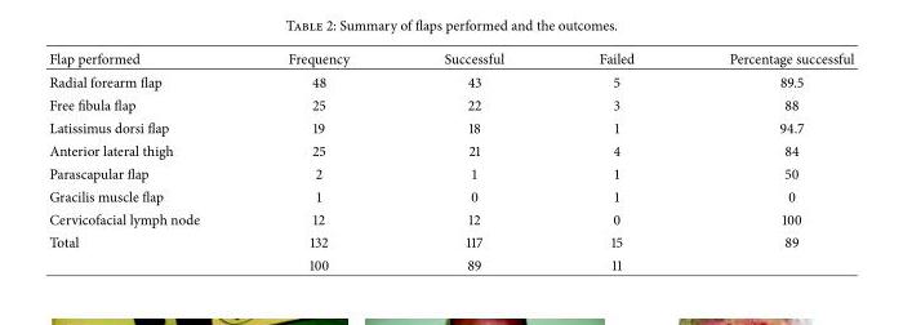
<table><thead><tr><td>Flap performed</td><td>Frequency</td><td>Successful</td><td>Failed</td><td>Percentage successful</td></tr></thead><tbody><tr><td>Radial forearm flap</td><td>48</td><td>43</td><td>5</td><td>89.5</td></tr><tr><td>Free fibula flap</td><td>25</td><td>22</td><td>3</td><td>88</td></tr><tr><td>Latissimus dorsi flap</td><td>19</td><td>18</td><td>1</td><td>94.7</td></tr><tr><td>Anterior lateral thigh</td><td>25</td><td>21</td><td>4</td><td>84</td></tr><tr><td>Parascapular flap</td><td>2</td><td>1</td><td>1</td><td>50</td></tr><tr><td>Gracilis muscle flap</td><td>1</td><td>0</td><td>1</td><td>0</td></tr><tr><td>Cervicofacial lymph node</td><td>12</td><td>12</td><td>0</td><td>100</td></tr><tr><td rowspan="2">Total</td><td>132</td><td>117</td><td>15</td><td>89</td></tr><tr><td>100</td><td>89</td><td>11</td><td></td></tr></tbody></table>